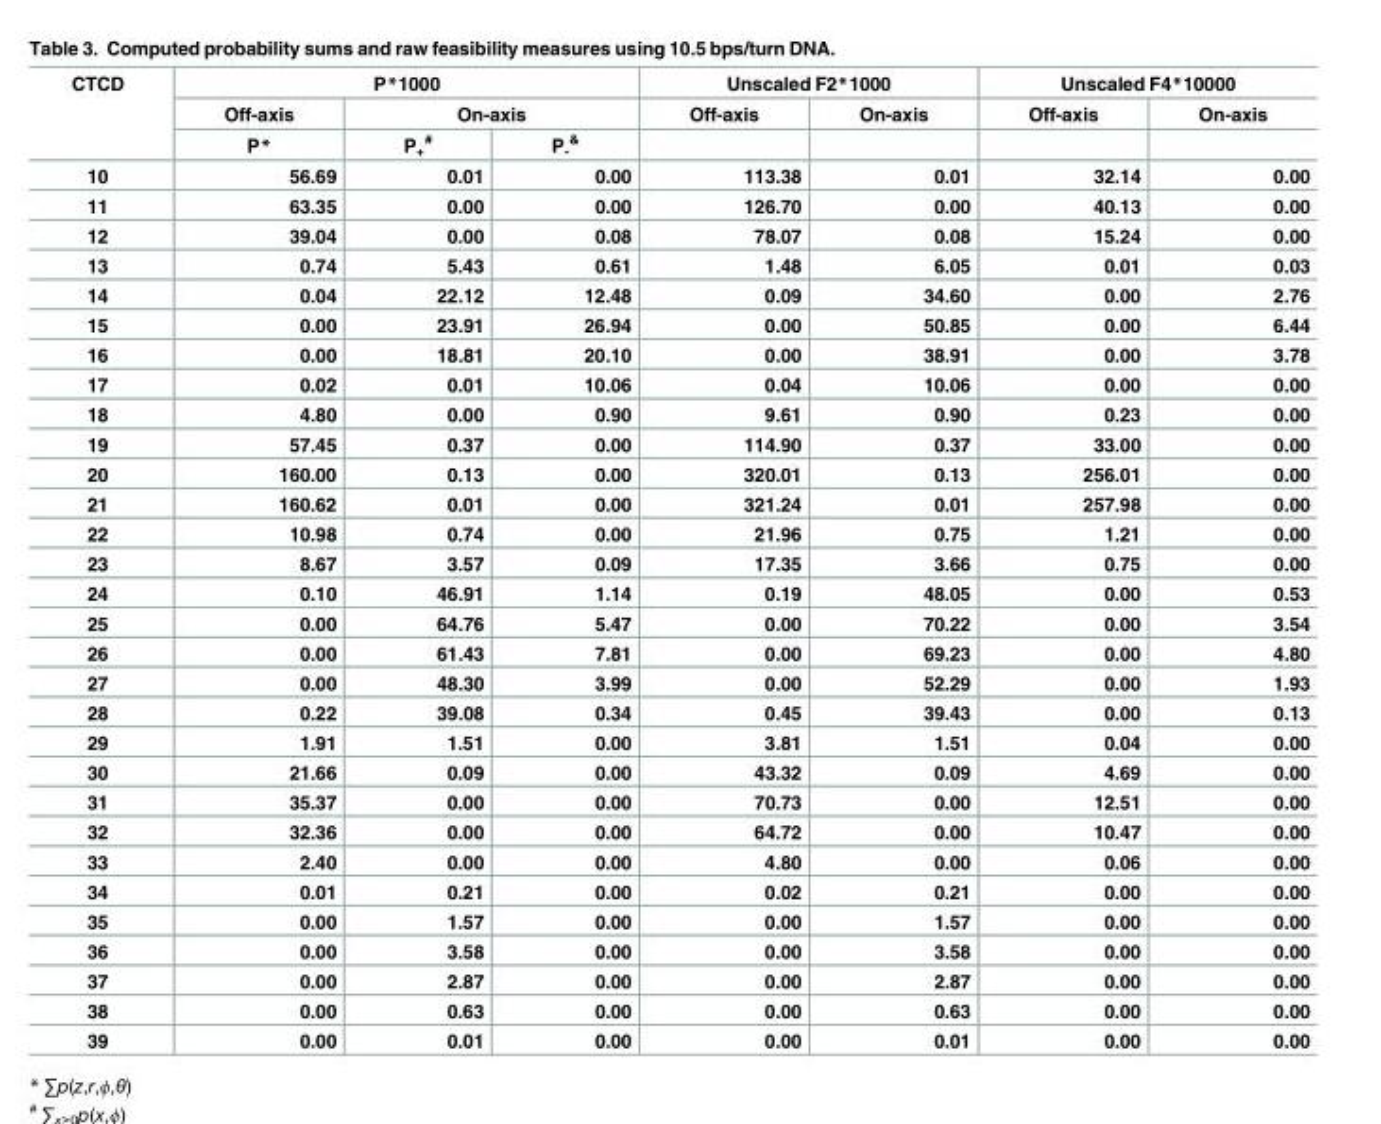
<table><thead><tr><td rowspan="3">CTCD</td><td colspan="3">P*1000</td><td colspan="2">Unscaled F2*1000</td><td colspan="2">Unscaled F4*10000</td></tr><tr><td rowspan="2">Off-axis P*</td><td colspan="2">On-axis</td><td rowspan="2">Off-axis</td><td rowspan="2">On-axis</td><td rowspan="2">Off-axis</td><td rowspan="2">On-axis</td></tr><tr><td>P<sub>+</sub> <sup>#</sup></td><td>P<sub>-</sub> <sup>&amp;</sup></td></tr></thead><tbody><tr><td>10</td><td>56.69</td><td>0.01</td><td>0.00</td><td>113.38</td><td>0.01</td><td>32.14</td><td>0.00</td></tr><tr><td>11</td><td>63.35</td><td>0.00</td><td>0.00</td><td>126.70</td><td>0.00</td><td>40.13</td><td>0.00</td></tr><tr><td>12</td><td>39.04</td><td>0.00</td><td>0.08</td><td>78.07</td><td>0.08</td><td>15.24</td><td>0.00</td></tr><tr><td>13</td><td>0.74</td><td>5.43</td><td>0.61</td><td>1.48</td><td>6.05</td><td>0.01</td><td>0.03</td></tr><tr><td>14</td><td>0.04</td><td>22.12</td><td>12.48</td><td>0.09</td><td>34.60</td><td>0.00</td><td>2.76</td></tr><tr><td>15</td><td>0.00</td><td>23.91</td><td>26.94</td><td>0.00</td><td>50.85</td><td>0.00</td><td>6.44</td></tr><tr><td>16</td><td>0.00</td><td>18.81</td><td>20.10</td><td>0.00</td><td>38.91</td><td>0.00</td><td>3.78</td></tr><tr><td>17</td><td>0.02</td><td>0.01</td><td>10.06</td><td>0.04</td><td>10.06</td><td>0.00</td><td>0.00</td></tr><tr><td>18</td><td>4.80</td><td>0.00</td><td>0.90</td><td>9.61</td><td>0.90</td><td>0.23</td><td>0.00</td></tr><tr><td>19</td><td>57.45</td><td>0.37</td><td>0.00</td><td>114.90</td><td>0.37</td><td>33.00</td><td>0.00</td></tr><tr><td>20</td><td>160.00</td><td>0.13</td><td>0.00</td><td>320.01</td><td>0.13</td><td>256.01</td><td>0.00</td></tr><tr><td>21</td><td>160.62</td><td>0.01</td><td>0.00</td><td>321.24</td><td>0.01</td><td>257.98</td><td>0.00</td></tr><tr><td>22</td><td>10.98</td><td>0.74</td><td>0.00</td><td>21.96</td><td>0.75</td><td>1.21</td><td>0.00</td></tr><tr><td>23</td><td>8.67</td><td>3.57</td><td>0.09</td><td>17.35</td><td>3.66</td><td>0.75</td><td>0.00</td></tr><tr><td>24</td><td>0.10</td><td>46.91</td><td>1.14</td><td>0.19</td><td>48.05</td><td>0.00</td><td>0.53</td></tr><tr><td>25</td><td>0.00</td><td>64.76</td><td>5.47</td><td>0.00</td><td>70.22</td><td>0.00</td><td>3.54</td></tr><tr><td>26</td><td>0.00</td><td>61.43</td><td>7.81</td><td>0.00</td><td>69.23</td><td>0.00</td><td>4.80</td></tr><tr><td>27</td><td>0.00</td><td>48.30</td><td>3.99</td><td>0.00</td><td>52.29</td><td>0.00</td><td>1.93</td></tr><tr><td>28</td><td>0.22</td><td>39.08</td><td>0.34</td><td>0.45</td><td>39.43</td><td>0.00</td><td>0.13</td></tr><tr><td>29</td><td>1.91</td><td>1.51</td><td>0.00</td><td>3.81</td><td>1.51</td><td>0.04</td><td>0.00</td></tr><tr><td>30</td><td>21.66</td><td>0.09</td><td>0.00</td><td>43.32</td><td>0.09</td><td>4.69</td><td>0.00</td></tr><tr><td>31</td><td>35.37</td><td>0.00</td><td>0.00</td><td>70.73</td><td>0.00</td><td>12.51</td><td>0.00</td></tr><tr><td>32</td><td>32.36</td><td>0.00</td><td>0.00</td><td>64.72</td><td>0.00</td><td>10.47</td><td>0.00</td></tr><tr><td>33</td><td>2.40</td><td>0.00</td><td>0.00</td><td>4.80</td><td>0.00</td><td>0.06</td><td>0.00</td></tr><tr><td>34</td><td>0.01</td><td>0.21</td><td>0.00</td><td>0.02</td><td>0.21</td><td>0.00</td><td>0.00</td></tr><tr><td>35</td><td>0.00</td><td>1.57</td><td>0.00</td><td>0.00</td><td>1.57</td><td>0.00</td><td>0.00</td></tr><tr><td>36</td><td>0.00</td><td>3.58</td><td>0.00</td><td>0.00</td><td>3.58</td><td>0.00</td><td>0.00</td></tr><tr><td>37</td><td>0.00</td><td>2.87</td><td>0.00</td><td>0.00</td><td>2.87</td><td>0.00</td><td>0.00</td></tr><tr><td>38</td><td>0.00</td><td>0.63</td><td>0.00</td><td>0.00</td><td>0.63</td><td>0.00</td><td>0.00</td></tr><tr><td>39</td><td>0.00</td><td>0.01</td><td>0.00</td><td>0.00</td><td>0.01</td><td>0.00</td><td>0.00</td></tr></tbody></table>